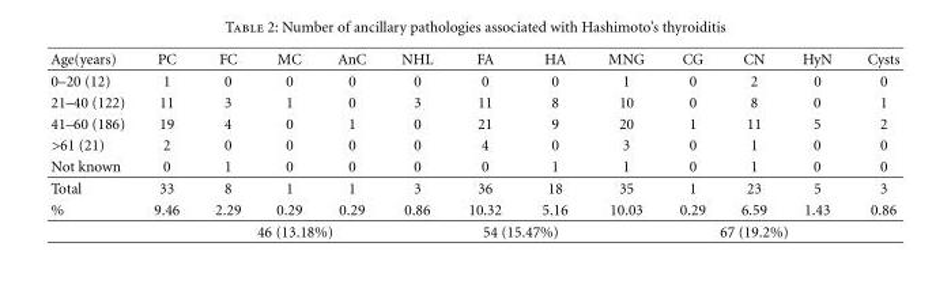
<table><thead><tr><td>Age(years)</td><td>PC</td><td>FC</td><td>MC</td><td>AnC</td><td>NHL</td><td>FA</td><td>HA</td><td>MNG</td><td>CG</td><td>CN</td><td>HyN</td><td>Cysts</td></tr></thead><tbody><tr><td>0–20 (12)</td><td>1</td><td>0</td><td>0</td><td>0</td><td>0</td><td>0</td><td>0</td><td>1</td><td>0</td><td>2</td><td>0</td><td>0</td></tr><tr><td>21–40 (122)</td><td>11</td><td>3</td><td>1</td><td>0</td><td>3</td><td>11</td><td>8</td><td>10</td><td>0</td><td>8</td><td>0</td><td>1</td></tr><tr><td>41–60 (186)</td><td>19</td><td>4</td><td>0</td><td>1</td><td>0</td><td>21</td><td>9</td><td>20</td><td>1</td><td>11</td><td>5</td><td>2</td></tr><tr><td>&gt;61 (21)</td><td>2</td><td>0</td><td>0</td><td>0</td><td>0</td><td>4</td><td>0</td><td>3</td><td>0</td><td>1</td><td>0</td><td>0</td></tr><tr><td>Not known</td><td>0</td><td>1</td><td>0</td><td>0</td><td>0</td><td>0</td><td>1</td><td>1</td><td>0</td><td>1</td><td>0</td><td>0</td></tr><tr><td>Total</td><td>33</td><td>8</td><td>1</td><td>1</td><td>3</td><td>36</td><td>18</td><td>35</td><td>1</td><td>23</td><td>5</td><td>3</td></tr><tr><td rowspan="2">%</td><td>9.46</td><td>2.29</td><td>0.29</td><td>0.29</td><td>0.86</td><td>10.32</td><td>5.16</td><td>10.03</td><td>0.29</td><td>6.59</td><td>1.43</td><td>0.86</td></tr><tr><td colspan="5">46 (13.18%)</td><td colspan="2">54 (15.47%)</td><td colspan="5">67 (19.2%)</td></tr></tbody></table>